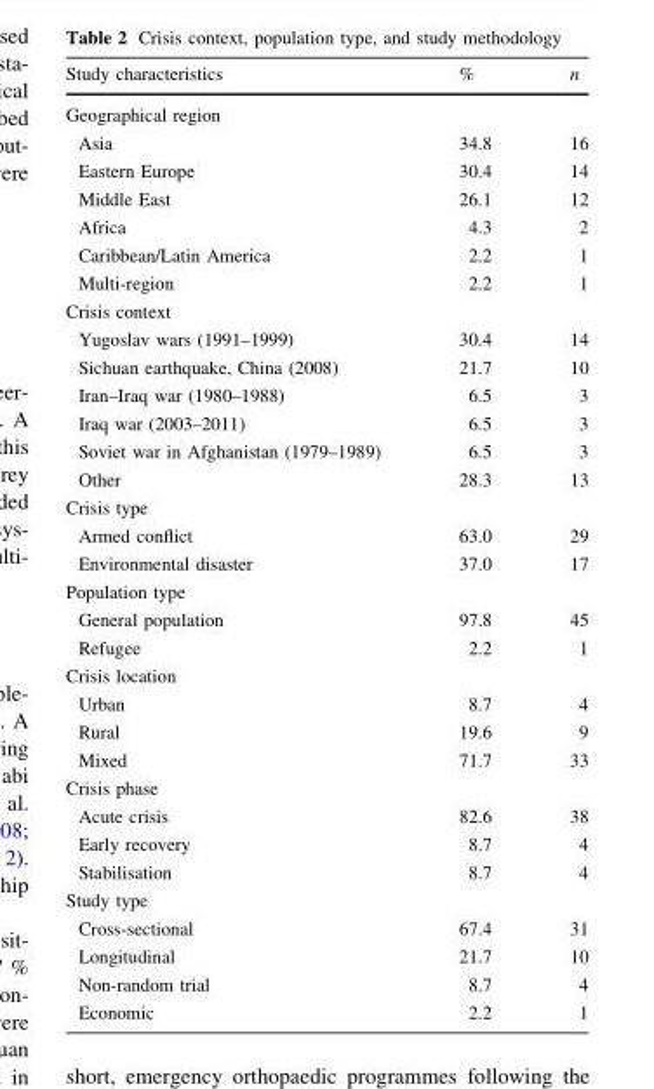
<table><thead><tr><td>Study characteristics</td><td>%</td><td>n</td></tr></thead><tbody><tr><td colspan="3">Geographical region</td></tr><tr><td>Asia</td><td>34.8</td><td>16</td></tr><tr><td>Eastern Europe</td><td>30.4</td><td>14</td></tr><tr><td>Middle East</td><td>26.1</td><td>12</td></tr><tr><td>Africa</td><td>4.3</td><td>2</td></tr><tr><td>Caribbean/Latin America</td><td>2.2</td><td>1</td></tr><tr><td>Multi-region</td><td>2.2</td><td>1</td></tr><tr><td colspan="3">Crisis context</td></tr><tr><td>Yugoslav wars (1991–1999)</td><td>30.4</td><td>14</td></tr><tr><td>Sichuan earthquake, China (2008)</td><td>21.7</td><td>10</td></tr><tr><td>Iran–Iraq war (1980–1988)</td><td>6.5</td><td>3</td></tr><tr><td>Iraq war (2003–2011)</td><td>6.5</td><td>3</td></tr><tr><td>Soviet war in Afghanistan (1979–1989)</td><td>6.5</td><td>3</td></tr><tr><td>Other</td><td>28.3</td><td>13</td></tr><tr><td colspan="3">Crisis type</td></tr><tr><td>Armed conflict</td><td>63.0</td><td>29</td></tr><tr><td>Environmental disaster</td><td>37.0</td><td>17</td></tr><tr><td colspan="3">Population type</td></tr><tr><td>General population</td><td>97.8</td><td>45</td></tr><tr><td>Refugee</td><td>2.2</td><td>1</td></tr><tr><td colspan="3">Crisis location</td></tr><tr><td>Urban</td><td>8.7</td><td>4</td></tr><tr><td>Rural</td><td>19.6</td><td>9</td></tr><tr><td>Mixed</td><td>71.7</td><td>33</td></tr><tr><td colspan="3">Crisis phase</td></tr><tr><td>Acute crisis</td><td>82.6</td><td>38</td></tr><tr><td>Early recovery</td><td>8.7</td><td>4</td></tr><tr><td>Stabilisation</td><td>8.7</td><td>4</td></tr><tr><td colspan="3">Study type</td></tr><tr><td>Cross-sectional</td><td>67.4</td><td>31</td></tr><tr><td>Longitudinal</td><td>21.7</td><td>10</td></tr><tr><td>Non-random trial</td><td>8.7</td><td>4</td></tr><tr><td>Economic</td><td>2.2</td><td>1</td></tr></tbody></table>